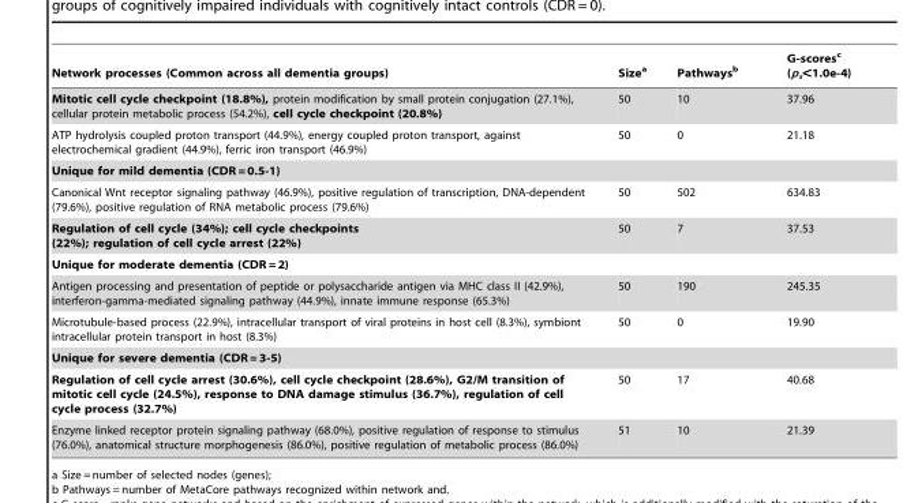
<table><thead><tr><td>Network processes (Common across all dementia groups)</td><td>Size<sup>a</sup></td><td>Pathways<sup>b</sup></td><td>G-scores<sup>c</sup> (p<sub>s</sub>&lt;1.0e-4)</td></tr></thead><tbody><tr><td>Mitotic cell cycle checkpoint (18.8%), protein modification by small protein conjugation (27.1%), cellular protein metabolic process (54.2%), cell cycle checkpoint (20.8%)</td><td>50</td><td>10</td><td>37.96</td></tr><tr><td>ATP hydrolysis coupled proton transport (44.9%), energy coupled proton transport, against electrochemical gradient (44.9%), ferric iron transport (46.9%)</td><td>50</td><td>0</td><td>21.18</td></tr><tr><td colspan="4">Unique for mild dementia (CDR = 0.5-1)</td></tr><tr><td>Canonical Wnt receptor signaling pathway (46.9%), positive regulation of transcription, DNA-dependent (79.6%), positive regulation of RNA metabolic process (79.6%)</td><td>50</td><td>502</td><td>634.83</td></tr><tr><td>Regulation of cell cycle (34%); cell cycle checkpoints (22%); regulation of cell cycle arrest (22%)</td><td>50</td><td>7</td><td>37.53</td></tr><tr><td colspan="4">Unique for moderate dementia (CDR = 2)</td></tr><tr><td>Antigen processing and presentation of peptide or polysaccharide antigen via MHC class II (42.9%), interferon-gamma-mediated signaling pathway (44.9%), innate immune response (65.3%)</td><td>50</td><td>190</td><td>245.35</td></tr><tr><td>Microtubule-based process (22.9%), intracellular transport of viral proteins in host cell (8.3%), symbiont intracellular protein transport in host (8.3%)</td><td>50</td><td>0</td><td>19.90</td></tr><tr><td colspan="4">Unique for severe dementia (CDR = 3-5)</td></tr><tr><td>Regulation of cell cycle arrest (30.6%), cell cycle checkpoint (28.6%), G2/M transition of mitotic cell cycle (24.5%), response to DNA damage stimulus (36.7%), regulation of cell cycle process (32.7%)</td><td>50</td><td>17</td><td>40.68</td></tr><tr><td>Enzyme linked receptor protein signaling pathway (68.0%), positive regulation of response to stimulus (76.0%), anatomical structure morphogenesis (86.0%), positive regulation of metabolic process (86.0%)</td><td>51</td><td>10</td><td>21.39</td></tr></tbody></table>